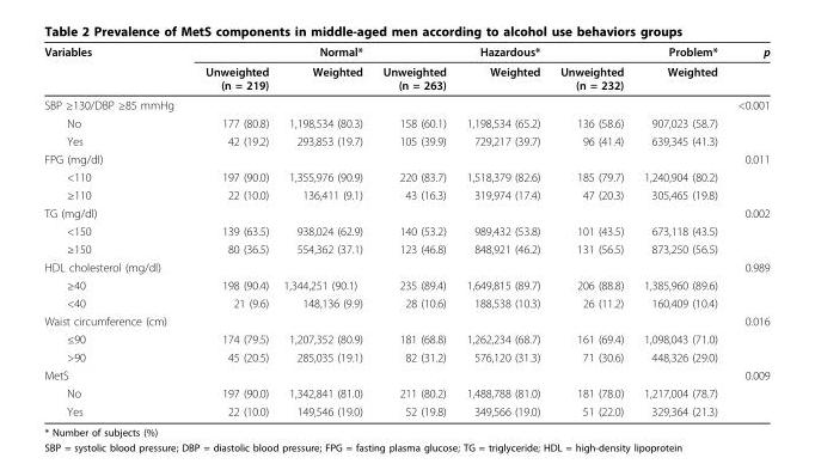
<table><thead><tr><td rowspan="2">Variables</td><td colspan="2">Normal*</td><td colspan="2">Hazardous*</td><td colspan="2">Problem*</td><td rowspan="2">p</td></tr><tr><td>Unweighted (n = 219)</td><td>Weighted</td><td>Unweighted (n = 263)</td><td>Weighted</td><td>Unweighted (n = 232)</td><td>Weighted</td></tr></thead><tbody><tr><td>SBP ≥130/DBP ≥85 mmHg</td><td></td><td></td><td></td><td></td><td></td><td></td><td>&lt;0.001</td></tr><tr><td>No</td><td>177 (80.8)</td><td>1,198,534 (80.3)</td><td>158 (60.1)</td><td>1,198,534 (65.2)</td><td>136 (58.6)</td><td>907,023 (58.7)</td><td></td></tr><tr><td>Yes</td><td>42 (19.2)</td><td>293,853 (19.7)</td><td>105 (39.9)</td><td>729,217 (39.7)</td><td>96 (41.4)</td><td>639,345 (41.3)</td><td></td></tr><tr><td>FPG (mg/dl)</td><td></td><td></td><td></td><td></td><td></td><td></td><td>0.011</td></tr><tr><td>&lt;110</td><td>197 (90.0)</td><td>1,355,976 (90.9)</td><td>220 (83.7)</td><td>1,518,379 (82.6)</td><td>185 (79.7)</td><td>1,240,904 (80.2)</td><td></td></tr><tr><td>≥110</td><td>22 (10.0)</td><td>136,411 (9.1)</td><td>43 (16.3)</td><td>319,974 (17.4)</td><td>47 (20.3)</td><td>305,465 (19.8)</td><td></td></tr><tr><td>TG (mg/dl)</td><td></td><td></td><td></td><td></td><td></td><td></td><td>0.002</td></tr><tr><td>&lt;150</td><td>139 (63.5)</td><td>938,024 (62.9)</td><td>140 (53.2)</td><td>989,432 (53.8)</td><td>101 (43.5)</td><td>673,118 (43.5)</td><td></td></tr><tr><td>≥150</td><td>80 (36.5)</td><td>554,362 (37.1)</td><td>123 (46.8)</td><td>848,921 (46.2)</td><td>131 (56.5)</td><td>873,250 (56.5)</td><td></td></tr><tr><td>HDL cholesterol (mg/dl)</td><td></td><td></td><td></td><td></td><td></td><td></td><td>0.989</td></tr><tr><td>≥40</td><td>198 (90.4)</td><td>1,344,251 (90.1)</td><td>235 (89.4)</td><td>1,649,815 (89.7)</td><td>206 (88.8)</td><td>1,385,960 (89.6)</td><td></td></tr><tr><td>&lt;40</td><td>21 (9.6)</td><td>148,136 (9.9)</td><td>28 (10.6)</td><td>188,538 (10.3)</td><td>26 (11.2)</td><td>160,409 (10.4)</td><td></td></tr><tr><td>Waist circumference (cm)</td><td></td><td></td><td></td><td></td><td></td><td></td><td>0.016</td></tr><tr><td>≤90</td><td>174 (79.5)</td><td>1,207,352 (80.9)</td><td>181 (68.8)</td><td>1,262,234 (68.7)</td><td>161 (69.4)</td><td>1,098,043 (71.0)</td><td></td></tr><tr><td>&gt;90</td><td>45 (20.5)</td><td>285,035 (19.1)</td><td>82 (31.2)</td><td>576,120 (31.3)</td><td>71 (30.6)</td><td>448,326 (29.0)</td><td></td></tr><tr><td>MetS</td><td></td><td></td><td></td><td></td><td></td><td></td><td>0.009</td></tr><tr><td>No</td><td>197 (90.0)</td><td>1,342,841 (81.0)</td><td>211 (80.2)</td><td>1,488,788 (81.0)</td><td>181 (78.0)</td><td>1,217,004 (78.7)</td><td></td></tr><tr><td>Yes</td><td>22 (10.0)</td><td>149,546 (19.0)</td><td>52 (19.8)</td><td>349,566 (19.0)</td><td>51 (22.0)</td><td>329,364 (21.3)</td><td></td></tr></tbody></table>